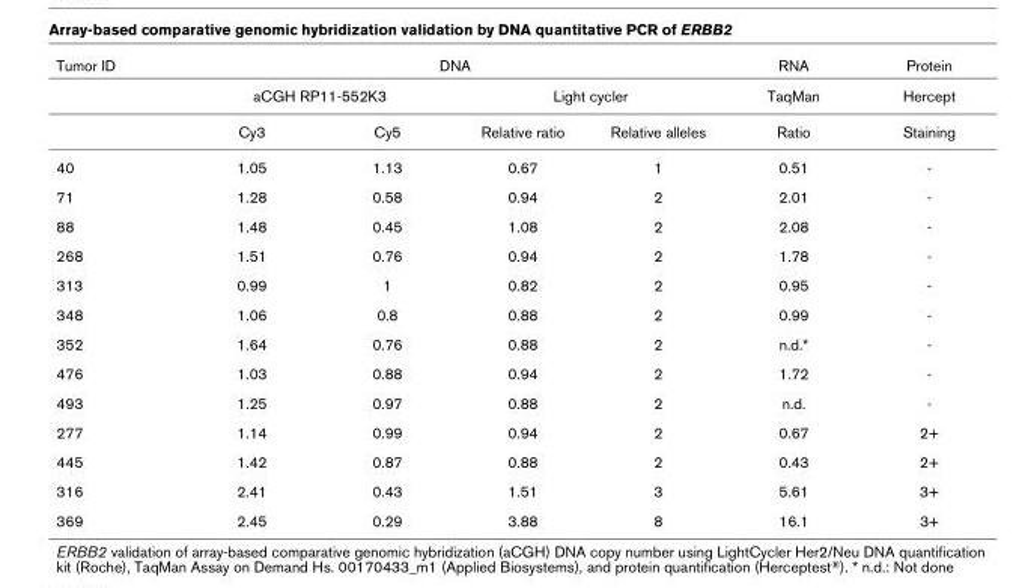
<table><thead><tr><td rowspan="3">Tumor ID</td><td colspan="4">DNA</td><td rowspan="3">RNA TaqMan Ratio</td><td rowspan="3">Protein Hercept Staining</td></tr><tr><td colspan="2">aCGH RP11-552K3</td><td colspan="2">Light cycler</td></tr><tr><td>Cy3</td><td>Cy5</td><td>Relative ratio</td><td>Relative alleles</td></tr></thead><tbody><tr><td>40</td><td>1.05</td><td>1.13</td><td>0.67</td><td>1</td><td>0.51</td><td>-</td></tr><tr><td>71</td><td>1.28</td><td>0.58</td><td>0.94</td><td>2</td><td>2.01</td><td>-</td></tr><tr><td>88</td><td>1.48</td><td>0.45</td><td>1.08</td><td>2</td><td>2.08</td><td>-</td></tr><tr><td>268</td><td>1.51</td><td>0.76</td><td>0.94</td><td>2</td><td>1.78</td><td>-</td></tr><tr><td>313</td><td>0.99</td><td>1</td><td>0.82</td><td>2</td><td>0.95</td><td>-</td></tr><tr><td>348</td><td>1.06</td><td>0.8</td><td>0.88</td><td>2</td><td>0.99</td><td>-</td></tr><tr><td>352</td><td>1.64</td><td>0.76</td><td>0.88</td><td>2</td><td>n.d.*</td><td>-</td></tr><tr><td>476</td><td>1.03</td><td>0.88</td><td>0.94</td><td>2</td><td>1.72</td><td>-</td></tr><tr><td>493</td><td>1.25</td><td>0.97</td><td>0.88</td><td>2</td><td>n.d.</td><td>-</td></tr><tr><td>277</td><td>1.14</td><td>0.99</td><td>0.94</td><td>2</td><td>0.67</td><td>2+</td></tr><tr><td>445</td><td>1.42</td><td>0.87</td><td>0.88</td><td>2</td><td>0.43</td><td>2+</td></tr><tr><td>316</td><td>2.41</td><td>0.43</td><td>1.51</td><td>3</td><td>5.61</td><td>3+</td></tr><tr><td>369</td><td>2.45</td><td>0.29</td><td>3.88</td><td>8</td><td>16.1</td><td>3+</td></tr></tbody></table>